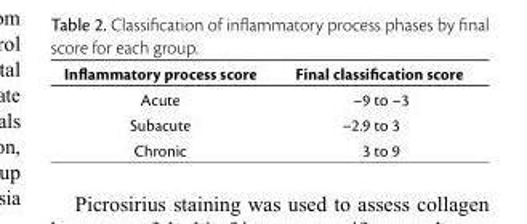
<table><thead><tr><td>Inflammatory process score</td><td>Final classification score</td></tr></thead><tbody><tr><td>Acute</td><td>–9 to –3</td></tr><tr><td>Subacute</td><td>–2.9 to 3</td></tr><tr><td>Chronic</td><td>3 to 9</td></tr></tbody></table>